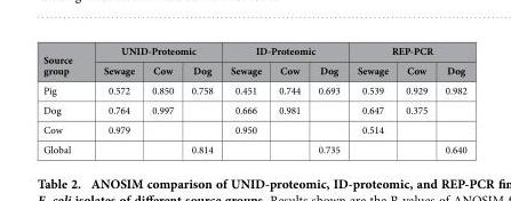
<table><thead><tr><td rowspan="2">Source group</td><td colspan="3">UNID-Proteomic</td><td colspan="3">ID-Proteomic</td><td colspan="3">REP-PCR</td></tr><tr><td>Sewage</td><td>Cow</td><td>Dog</td><td>Sewage</td><td>Cow</td><td>Dog</td><td>Sewage</td><td>Cow</td><td>Dog</td></tr></thead><tbody><tr><td>Pig</td><td>0.572</td><td>0.850</td><td>0.758</td><td>0.451</td><td>0.744</td><td>0.693</td><td>0.539</td><td>0.929</td><td>0.982</td></tr><tr><td>Dog</td><td>0.764</td><td>0.997</td><td></td><td>0.666</td><td>0.981</td><td></td><td>0.647</td><td>0.375</td><td></td></tr><tr><td>Cow</td><td>0.979</td><td></td><td></td><td>0.950</td><td></td><td></td><td>0.514</td><td></td><td></td></tr><tr><td>Global</td><td></td><td></td><td>0.814</td><td></td><td></td><td>0.735</td><td></td><td></td><td>0.640</td></tr></tbody></table>